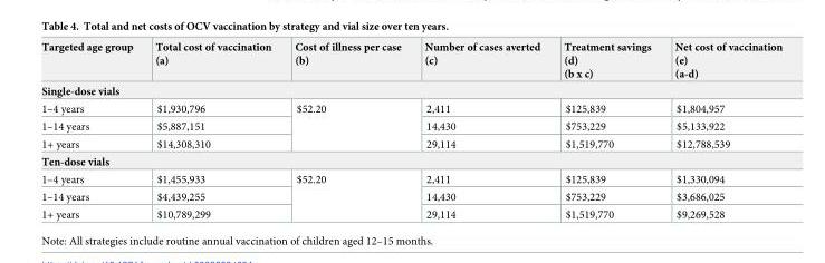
<table><thead><tr><td>Targeted age group</td><td>Total cost of vaccination (a)</td><td>Cost of illness per case (b)</td><td>Number of cases averted (c)</td><td>Treatment savings (d) (b x c)</td><td>Net cost of vaccination (e) (a-d)</td></tr></thead><tbody><tr><td colspan="6">Single-dose vials</td></tr><tr><td>1–4 years</td><td>$1,930,796</td><td rowspan="3">$52.20</td><td>2,411</td><td>$125,839</td><td>$1,804,957</td></tr><tr><td>1–14 years</td><td>$5,887,151</td><td>14,430</td><td>$753,229</td><td>$5,133,922</td></tr><tr><td>1+ years</td><td>$14,308,310</td><td>29,114</td><td>$1,519,770</td><td>$12,788,539</td></tr><tr><td colspan="6">Ten-dose vials</td></tr><tr><td>1–4 years</td><td>$1,455,933</td><td rowspan="3">$52.20</td><td>2,411</td><td>$125,839</td><td>$1,330,094</td></tr><tr><td>1–14 years</td><td>$4,439,255</td><td>14,430</td><td>$753,229</td><td>$3,686,025</td></tr><tr><td>1+ years</td><td>$10,789,299</td><td>29,114</td><td>$1,519,770</td><td>$9,269,528</td></tr></tbody></table>